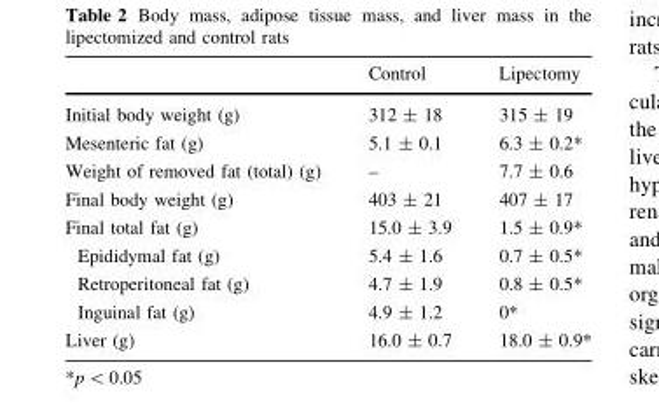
<table><thead><tr><td></td><td>Control</td><td>Lipectomy</td></tr></thead><tbody><tr><td>Initial body weight (g)</td><td>312 ± 18</td><td>315 ± 19</td></tr><tr><td>Mesenteric fat (g)</td><td>5.1 ± 0.1</td><td>6.3 ± 0.2*</td></tr><tr><td>Weight of removed fat (total) (g)</td><td>–</td><td>7.7 ± 0.6</td></tr><tr><td>Final body weight (g)</td><td>403 ± 21</td><td>407 ± 17</td></tr><tr><td>Final total fat (g)</td><td>15.0 ± 3.9</td><td>1.5 ± 0.9*</td></tr><tr><td>Epididymal fat (g)</td><td>5.4 ± 1.6</td><td>0.7 ± 0.5*</td></tr><tr><td>Retroperitoneal fat (g)</td><td>4.7 ± 1.9</td><td>0.8 ± 0.5*</td></tr><tr><td>Inguinal fat (g)</td><td>4.9 ± 1.2</td><td>0*</td></tr><tr><td>Liver (g)</td><td>16.0 ± 0.7</td><td>18.0 ± 0.9*</td></tr></tbody></table>